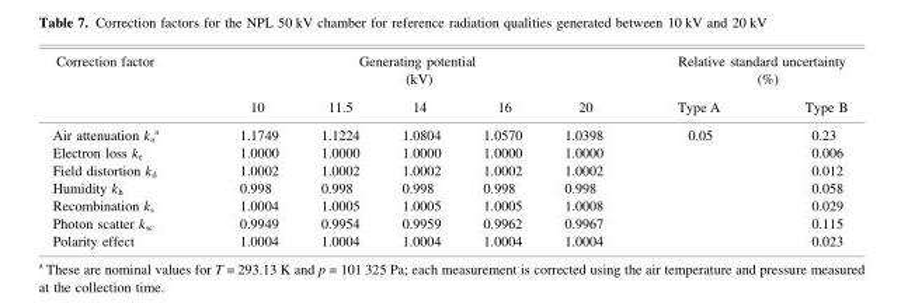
<table><thead><tr><td rowspan="2">Correction factor</td><td colspan="5">Generating potential (kV)</td><td colspan="2">Relative standard uncertainty (%)</td></tr><tr><td>10</td><td>11.5</td><td>14</td><td>16</td><td>20</td><td>Type A</td><td>Type B</td></tr></thead><tbody><tr><td>Air attenuation k<sub>a</sub> <sup>a</sup></td><td>1.1749</td><td>1.1224</td><td>1.0804</td><td>1.0570</td><td>1.0398</td><td>0.05</td><td>0.23</td></tr><tr><td>Electron loss k<sub>e</sub></td><td>1.0000</td><td>1.0000</td><td>1.0000</td><td>1.0000</td><td>1.0000</td><td></td><td>0.006</td></tr><tr><td>Field distortion k<sub>d</sub></td><td>1.0002</td><td>1.0002</td><td>1.0002</td><td>1.0002</td><td>1.0002</td><td></td><td>0.012</td></tr><tr><td>Humidity k<sub>h</sub></td><td>0.998</td><td>0.998</td><td>0.998</td><td>0.998</td><td>0.998</td><td></td><td>0.058</td></tr><tr><td>Recombination k<sub>s</sub></td><td>1.0004</td><td>1.0005</td><td>1.0005</td><td>1.0005</td><td>1.0008</td><td></td><td>0.029</td></tr><tr><td>Photon scatter k<sub>sc</sub></td><td>0.9949</td><td>0.9954</td><td>0.9959</td><td>0.9962</td><td>0.9967</td><td></td><td>0.115</td></tr><tr><td>Polarity effect</td><td>1.0004</td><td>1.0004</td><td>1.0004</td><td>1.0004</td><td>1.0004</td><td></td><td>0.023</td></tr></tbody></table>